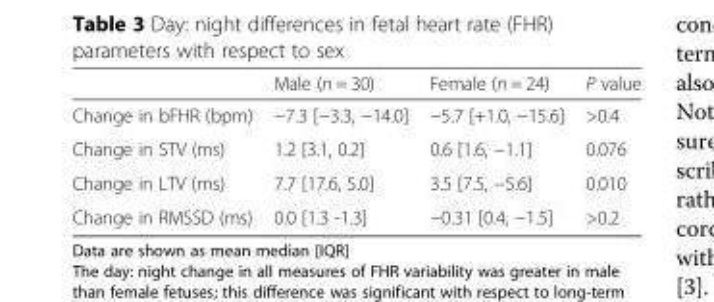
<table><thead><tr><td></td><td>Male (n = 30)</td><td>Female (n = 24)</td><td>P value</td></tr></thead><tbody><tr><td>Change in bFHR (bpm)</td><td>−7.3 [−3.3, −14.0]</td><td>−5.7 [+1.0, −15.6]</td><td>&gt;0.4</td></tr><tr><td>Change in STV (ms)</td><td>1.2 [3.1, 0.2]</td><td>0.6 [1.6, −1.1]</td><td>0.076</td></tr><tr><td>Change in LTV (ms)</td><td>7.7 [17.6, 5.0]</td><td>3.5 [7.5, −5.6]</td><td>0.010</td></tr><tr><td>Change in RMSSD (ms)</td><td>0.0 [1.3 -1.3]</td><td>−0.31 [0.4, −1.5]</td><td>&gt;0.2</td></tr></tbody></table>